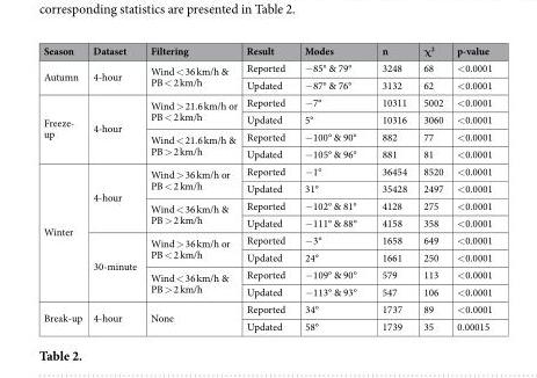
<table><thead><tr><td>Season</td><td>Dataset</td><td>Filtering</td><td>Result</td><td>Modes</td><td>n</td><td>χ<sup>2</sup></td><td>p-value</td></tr></thead><tbody><tr><td rowspan="2">Autumn</td><td rowspan="2">4-hour</td><td rowspan="2">Wind &lt; 36 km/h &amp; PB &lt; 2 km/h</td><td>Reported</td><td>− 85° &amp; 79°</td><td>3248</td><td>68</td><td>&lt; 0.0001</td></tr><tr><td>Updated</td><td>− 87° &amp; 76°</td><td>3132</td><td>62</td><td>&lt; 0.0001</td></tr><tr><td rowspan="4">Freeze- up</td><td rowspan="4">4-hour</td><td rowspan="2">Wind &gt; 21.6 km/h or PB &lt; 2 km/h</td><td>Reported</td><td>− 7°</td><td>10311</td><td>5002</td><td>&lt; 0.0001</td></tr><tr><td>Updated</td><td>5°</td><td>10316</td><td>3060</td><td>&lt; 0.0001</td></tr><tr><td rowspan="2">Wind &lt; 21.6 km/h &amp; PB &gt; 2 km/h</td><td>Reported</td><td>− 100° &amp; 90°</td><td>882</td><td>77</td><td>&lt; 0.0001</td></tr><tr><td>Updated</td><td>− 105° &amp; 96°</td><td>881</td><td>81</td><td>&lt; 0.0001</td></tr><tr><td rowspan="8">Winter</td><td rowspan="4">4-hour</td><td rowspan="2">Wind &gt; 36 km/h or PB &lt; 2 km/h</td><td>Reported</td><td>− 1°</td><td>36454</td><td>8520</td><td>&lt; 0.0001</td></tr><tr><td>Updated</td><td>31°</td><td>35428</td><td>2497</td><td>&lt; 0.0001</td></tr><tr><td rowspan="2">Wind &lt; 36 km/h &amp; PB &gt; 2 km/h</td><td>Reported</td><td>− 102° &amp; 81°</td><td>4128</td><td>275</td><td>&lt; 0.0001</td></tr><tr><td>Updated</td><td>− 111° &amp; 88°</td><td>4158</td><td>358</td><td>&lt; 0.0001</td></tr><tr><td rowspan="4">30-minute</td><td rowspan="2">Wind &gt; 36 km/h or PB &lt; 2 km/h</td><td>Reported</td><td>− 3°</td><td>1658</td><td>649</td><td>&lt; 0.0001</td></tr><tr><td>Updated</td><td>24°</td><td>1661</td><td>250</td><td>&lt; 0.0001</td></tr><tr><td rowspan="2">Wind &lt; 36 km/h &amp; PB &gt; 2 km/h</td><td>Reported</td><td>− 109° &amp; 90°</td><td>579</td><td>113</td><td>&lt; 0.0001</td></tr><tr><td>Updated</td><td>− 113° &amp; 93°</td><td>547</td><td>106</td><td>&lt; 0.0001</td></tr><tr><td rowspan="2">Break-up</td><td rowspan="2">4-hour</td><td rowspan="2">None</td><td>Reported</td><td>34°</td><td>1737</td><td>89</td><td>&lt; 0.0001</td></tr><tr><td>Updated</td><td>58°</td><td>1739</td><td>35</td><td>0.00015</td></tr></tbody></table>